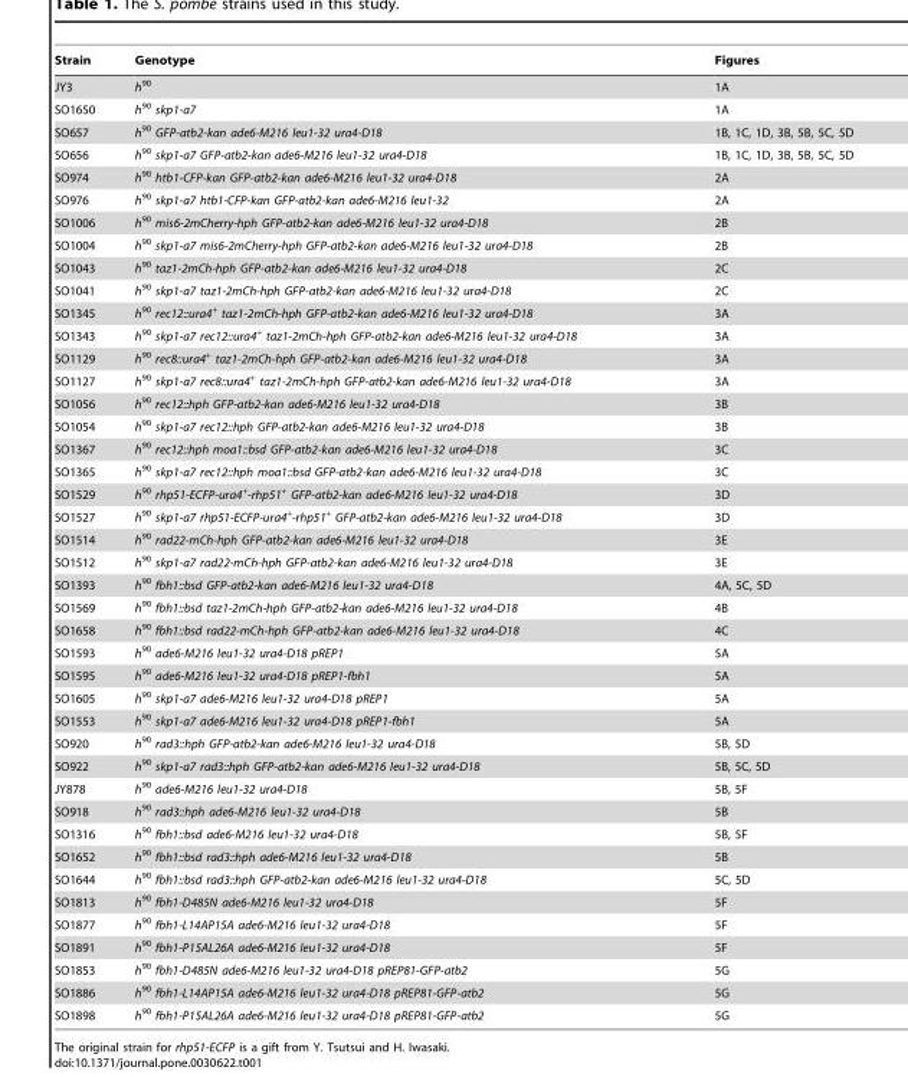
<table><thead><tr><td>Strain</td><td>Genotype</td><td>Figures</td></tr></thead><tbody><tr><td>JY3</td><td>h<sup>90</sup></td><td>1A</td></tr><tr><td>SO1650</td><td>h<sup>90</sup> skp1-a7</td><td>1A</td></tr><tr><td>SO657</td><td>h<sup>90</sup> GFP-atb2-kan ade6-M216 leu1-32 ura4-D18</td><td>1B, 1C, 1D, 3B, 5B, 5C, 5D</td></tr><tr><td>SO656</td><td>h<sup>90</sup> skp1-a7 GFP-atb2-kan ade6-M216 leu1-32 ura4-D18</td><td>1B, 1C, 1D, 3B, 5B, 5C, 5D</td></tr><tr><td>SO974</td><td>h<sup>90</sup> htb1-CFP-kan GFP-atb2-kan ade6-M216 leu1-32 ura4-D18</td><td>2A</td></tr><tr><td>SO976</td><td>h<sup>90</sup> skp1-a7 htb1-CFP-kan GFP-atb2-kan ade6-M216 leu1-32</td><td>2A</td></tr><tr><td>SO1006</td><td>h<sup>90</sup> mis6-2mCherry-hph GFP-atb2-kan ade6-M216 leu1-32 ura4-D18</td><td>2B</td></tr><tr><td>SO1004</td><td>h<sup>90</sup> skp1-a7 mis6-2mCherry-hph GFP-atb2-kan ade6-M216 leu1-32 ura4-D18</td><td>2B</td></tr><tr><td>SO1043</td><td>h<sup>90</sup> taz1-2mCh-hph GFP-atb2-kan ade6-M216 leu1-32 ura4-D18</td><td>2C</td></tr><tr><td>SO1041</td><td>h<sup>90</sup> skp1-a7 taz1-2mCh-hph GFP-atb2-kan ade6-M216 leu1-32 ura4-D18</td><td>2C</td></tr><tr><td>SO1345</td><td>h<sup>90</sup> rec12::ura4<sup>+</sup> taz1-2mCh-hph GFP-atb2-kan ade6-M216 leu1-32 ura4-D18</td><td>3A</td></tr><tr><td>SO1343</td><td>h<sup>90</sup> skp1-a7 rec12::ura4<sup>+</sup> taz1-2mCh-hph GFP-atb2-kan ade6-M216 leu1-32 ura4-D18</td><td>3A</td></tr><tr><td>SO1129</td><td>h<sup>90</sup> rec8::ura4<sup>+</sup> taz1-2mCh-hph GFP-atb2-kan ade6-M216 leu1-32 ura4-D18</td><td>3A</td></tr><tr><td>SO1127</td><td>h<sup>90</sup> skp1-a7 rec8::ura4<sup>+</sup> taz1-2mCh-hph GFP-atb2-kan ade6-M216 leu1-32 ura4-D18</td><td>3A</td></tr><tr><td>SO1056</td><td>h<sup>90</sup> rec12::hph GFP-atb2-kan ade6-M216 leu1-32 ura4-D18</td><td>3B</td></tr><tr><td>SO1054</td><td>h<sup>90</sup> skp1-a7 rec12::hph GFP-atb2-kan ade6-M216 leu1-32 ura4-D18</td><td>3B</td></tr><tr><td>SO1367</td><td>h<sup>90</sup> rec12::hph moa1::bsd GFP-atb2-kan ade6-M216 leu1-32 ura4-D18</td><td>3C</td></tr><tr><td>SO1365</td><td>h<sup>90</sup> skp1-a7 rec12::hph moa1::bsd GFP-atb2-kan ade6-M216 leu1-32 ura4-D18</td><td>3C</td></tr><tr><td>SO1529</td><td>h<sup>90</sup> rhp51-ECFP-ura4<sup>+</sup>-rhp51<sup>+</sup> GFP-atb2-kan ade6-M216 leu1-32 ura4-D18</td><td>3D</td></tr><tr><td>SO1527</td><td>h<sup>90</sup> skp1-a7 rhp51-ECFP-ura4<sup>+</sup>-rhp51<sup>+</sup> GFP-atb2-kan ade6-M216 leu1-32 ura4-D18</td><td>3D</td></tr><tr><td>SO1514</td><td>h<sup>90</sup> rad22-mCh-hph GFP-atb2-kan ade6-M216 leu1-32 ura4-D18</td><td>3E</td></tr><tr><td>SO1512</td><td>h<sup>90</sup> skp1-a7 rad22-mCh-hph GFP-atb2-kan ade6-M216 leu1-32 ura4-D18</td><td>3E</td></tr><tr><td>SO1393</td><td>h<sup>90</sup> fbh1::bsd GFP-atb2-kan ade6-M216 leu1-32 ura4-D18</td><td>4A, 5C, 5D</td></tr><tr><td>SO1569</td><td>h<sup>90</sup> fbh1::bsd taz1-2mCh-hph GFP-atb2-kan ade6-M216 leu1-32 ura4-D18</td><td>4B</td></tr><tr><td>SO1658</td><td>h<sup>90</sup> fbh1::bsd rad22-mCh-hph GFP-atb2-kan ade6-M216 leu1-32 ura4-D18</td><td>4C</td></tr><tr><td>SO1593</td><td>h<sup>90</sup> ade6-M216 leu1-32 ura4-D18 pREP1</td><td>5A</td></tr><tr><td>SO1595</td><td>h<sup>90</sup> ade6-M216 leu1-32 ura4-D18 pREP1-fbh1</td><td>5A</td></tr><tr><td>SO1605</td><td>h<sup>90</sup> skp1-a7 ade6-M216 leu1-32 ura4-D18 pREP1</td><td>5A</td></tr><tr><td>SO1553</td><td>h<sup>90</sup> skp1-a7 ade6-M216 leu1-32 ura4-D18 pREP1-fbh1</td><td>5A</td></tr><tr><td>SO920</td><td>h<sup>90</sup> rad3::hph GFP-atb2-kan ade6-M216 leu1-32 ura4-D18</td><td>5B, 5D</td></tr><tr><td>SO922</td><td>h<sup>90</sup> skp1-a7 rad3::hph GFP-atb2-kan ade6-M216 leu1-32 ura4-D18</td><td>5B, 5C, 5D</td></tr><tr><td>JY878</td><td>h<sup>90</sup> ade6-M216 leu1-32 ura4-D18</td><td>5B, 5F</td></tr><tr><td>SO918</td><td>h<sup>90</sup> rad3::hph ade6-M216 leu1-32 ura4-D18</td><td>5B</td></tr><tr><td>SO1316</td><td>h<sup>90</sup> fbh1::bsd ade6-M216 leu1-32 ura4-D18</td><td>5B, 5F</td></tr><tr><td>SO1652</td><td>h<sup>90</sup> fbh1::bsd rad3::hph ade6-M216 leu1-32 ura4-D18</td><td>5B</td></tr><tr><td>SO1644</td><td>h<sup>90</sup> fbh1::bsd rad3::hph GFP-atb2-kan ade6-M216 leu1-32 ura4-D18</td><td>5C, 5D</td></tr><tr><td>SO1813</td><td>h<sup>90</sup> fbh1-D485N ade6-M216 leu1-32 ura4-D18</td><td>5F</td></tr><tr><td>SO1877</td><td>h<sup>90</sup> fbh1-L14AP15A ade6-M216 leu1-32 ura4-D18</td><td>5F</td></tr><tr><td>SO1891</td><td>h<sup>90</sup> fbh1-P15AL26A ade6-M216 leu1-32 ura4-D18</td><td>5F</td></tr><tr><td>SO1853</td><td>h<sup>90</sup> fbh1-D485N ade6-M216 leu1-32 ura4-D18 pREP81-GFP-atb2</td><td>5G</td></tr><tr><td>SO1886</td><td>h<sup>90</sup> fbh1-L14AP15A ade6-M216 leu1-32 ura4-D18 pREP81-GFP-atb2</td><td>5G</td></tr><tr><td>SO1898</td><td>h<sup>90</sup> fbh1-P15AL26A ade6-M216 leu1-32 ura4-D18 pREP81-GFP-atb2</td><td>5G</td></tr></tbody></table>